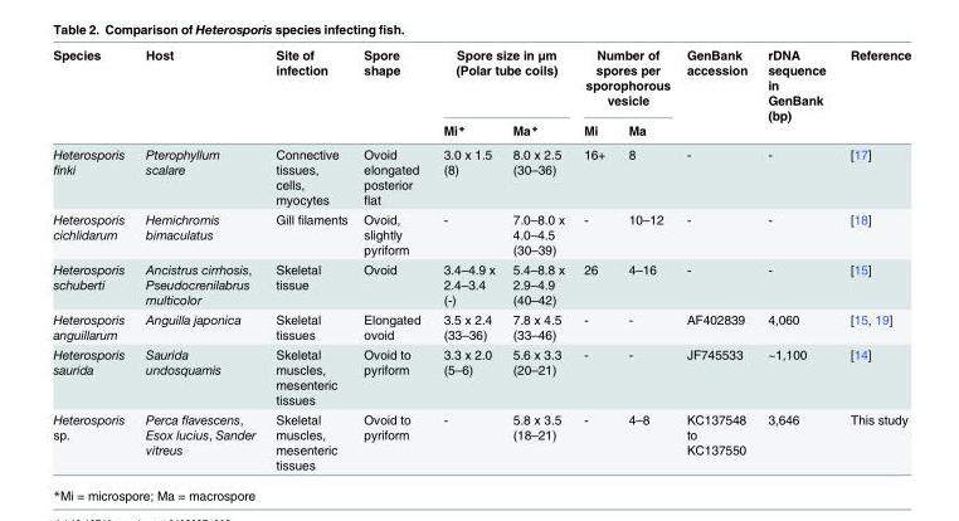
<table><thead><tr><td rowspan="2">Species</td><td rowspan="2">Host</td><td rowspan="2">Site of infection</td><td rowspan="2">Spore shape</td><td colspan="2">Spore size in μm (Polar tube coils)</td><td colspan="2">Number of spores per sporophorous vesicle</td><td rowspan="2">GenBank accession</td><td rowspan="2">rDNA sequence in GenBank (bp)</td><td rowspan="2">Reference</td></tr><tr><td>Mi*</td><td>Ma*</td><td>Mi</td><td>Ma</td></tr></thead><tbody><tr><td>Heterosporis finki</td><td>Pterophyllum scalare</td><td>Connective tissues, cells, myocytes</td><td>Ovoid elongated posterior flat</td><td>3.0 x 1.5 (8)</td><td>8.0 x 2.5 (30–36)</td><td>16+</td><td>8</td><td>-</td><td>-</td><td>[17]</td></tr><tr><td>Heterosporis cichlidarum</td><td>Hemichromis bimaculatus</td><td>Gill filaments</td><td>Ovoid, slightly pyriform</td><td>-</td><td>7.0–8.0 x 4.0–4.5 (30–39)</td><td>-</td><td>10–12</td><td>-</td><td>-</td><td>[18]</td></tr><tr><td>Heterosporis schuberti</td><td>Ancistrus cirrhosis, Pseudocrenilabrus multicolor</td><td>Skeletal tissue</td><td>Ovoid</td><td>3.4–4.9 x 2.4–3.4 (-)</td><td>5.4–8.8 x 2.9–4.9 (40–42)</td><td>26</td><td>4–16</td><td>-</td><td>-</td><td>[15]</td></tr><tr><td>Heterosporis anguillarum</td><td>Anguilla japonica</td><td>Skeletal tissues</td><td>Elongated ovoid</td><td>3.5 x 2.4 (33–36)</td><td>7.8 x 4.5 (33–46)</td><td>-</td><td>-</td><td>AF402839</td><td>4,060</td><td>[15, 19]</td></tr><tr><td>Heterosporis saurida</td><td>Saurida undosquamis</td><td>Skeletal muscles, mesenteric tissues</td><td>Ovoid to pyriform</td><td>3.3 x 2.0 (5–6)</td><td>5.6 x 3.3 (20–21)</td><td>-</td><td>-</td><td>JF745533</td><td>~1,100</td><td>[14]</td></tr><tr><td>Heterosporis sp.</td><td>Perca flavescens, Esox lucius, Sander vitreus</td><td>Skeletal muscles, mesenteric tissues</td><td>Ovoid to pyriform</td><td>-</td><td>5.8 x 3.5 (18–21)</td><td>-</td><td>4–8</td><td>KC137548 to KC137550</td><td>3,646</td><td>This study</td></tr></tbody></table>